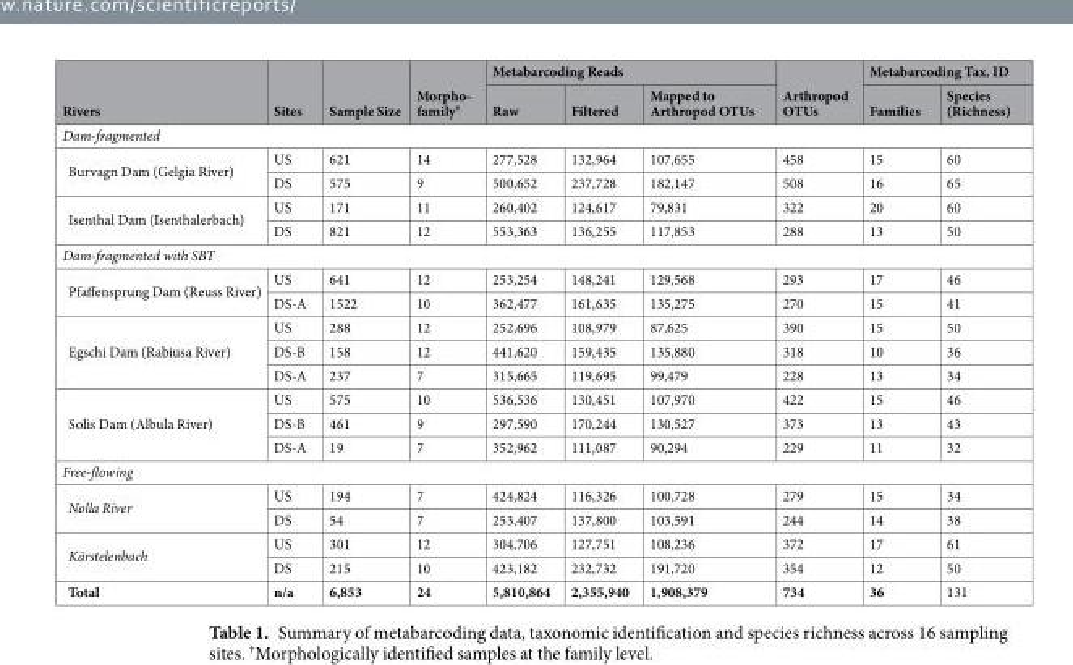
<table><thead><tr><td rowspan="2">Rivers</td><td rowspan="2">Sites</td><td rowspan="2">Sample Size</td><td rowspan="2">Morpho- family<sup>†</sup></td><td colspan="3">Metabarcoding Reads</td><td rowspan="2">Arthropod OTUs</td><td colspan="2">Metabarcoding Tax. ID</td></tr><tr><td>Raw</td><td>Filtered</td><td>Mapped to Arthropod OTUs</td><td>Families</td><td>Species (Richness)</td></tr></thead><tbody><tr><td colspan="10">Dam-fragmented</td></tr><tr><td rowspan="2">Burvagn Dam (Gelgia River)</td><td>US</td><td>621</td><td>14</td><td>277,528</td><td>132,964</td><td>107,655</td><td>458</td><td>15</td><td>60</td></tr><tr><td>DS</td><td>575</td><td>9</td><td>500,652</td><td>237,728</td><td>182,147</td><td>508</td><td>16</td><td>65</td></tr><tr><td rowspan="2">Isenthal Dam (Isenthalerbach)</td><td>US</td><td>171</td><td>11</td><td>260,402</td><td>124,617</td><td>79,831</td><td>322</td><td>20</td><td>60</td></tr><tr><td>DS</td><td>821</td><td>12</td><td>553,363</td><td>136,255</td><td>117,853</td><td>288</td><td>13</td><td>50</td></tr><tr><td colspan="10">Dam-fragmented with SBT</td></tr><tr><td rowspan="2">Pfaffensprung Dam (Reuss River)</td><td>US</td><td>641</td><td>12</td><td>253,254</td><td>148,241</td><td>129,568</td><td>293</td><td>17</td><td>46</td></tr><tr><td>DS-A</td><td>1522</td><td>10</td><td>362,477</td><td>161,635</td><td>135,275</td><td>270</td><td>15</td><td>41</td></tr><tr><td rowspan="3">Egschi Dam (Rabiusa River)</td><td>US</td><td>288</td><td>12</td><td>252,696</td><td>108,979</td><td>87,625</td><td>390</td><td>15</td><td>50</td></tr><tr><td>DS-B</td><td>158</td><td>12</td><td>441,620</td><td>159,435</td><td>135,880</td><td>318</td><td>10</td><td>36</td></tr><tr><td>DS-A</td><td>237</td><td>7</td><td>315,665</td><td>119,695</td><td>99,479</td><td>228</td><td>13</td><td>34</td></tr><tr><td rowspan="3">Solis Dam (Albula River)</td><td>US</td><td>575</td><td>10</td><td>536,536</td><td>130,451</td><td>107,970</td><td>422</td><td>15</td><td>46</td></tr><tr><td>DS-B</td><td>461</td><td>9</td><td>297,590</td><td>170,244</td><td>130,527</td><td>373</td><td>13</td><td>43</td></tr><tr><td>DS-A</td><td>19</td><td>7</td><td>352,962</td><td>111,087</td><td>90,294</td><td>229</td><td>11</td><td>32</td></tr><tr><td colspan="10">Free-flowing</td></tr><tr><td rowspan="2">Nolla River</td><td>US</td><td>194</td><td>7</td><td>424,824</td><td>116,326</td><td>100,728</td><td>279</td><td>15</td><td>34</td></tr><tr><td>DS</td><td>54</td><td>7</td><td>253,407</td><td>137,800</td><td>103,591</td><td>244</td><td>14</td><td>38</td></tr><tr><td rowspan="2">Kärstelenbach</td><td>US</td><td>301</td><td>12</td><td>304,706</td><td>127,751</td><td>108,236</td><td>372</td><td>17</td><td>61</td></tr><tr><td>DS</td><td>215</td><td>10</td><td>423,182</td><td>232,732</td><td>191,720</td><td>354</td><td>12</td><td>50</td></tr><tr><td>Total</td><td>n/a</td><td>6,853</td><td>24</td><td>5,810,864</td><td>2,355,940</td><td>1,908,379</td><td>734</td><td>36</td><td>131</td></tr></tbody></table>